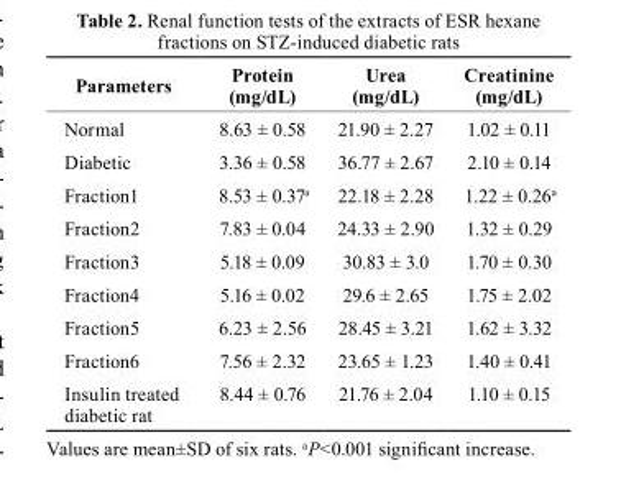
<table><thead><tr><td>Parameters</td><td>Protein (mg/dL)</td><td>Urea (mg/dL)</td><td>creatinine (mg/dL)</td></tr></thead><tbody><tr><td>Normal</td><td>8.63 ± 0.58</td><td>21.90 ± 2.27</td><td>1.02 ± 0.11</td></tr><tr><td>Diabetic</td><td>3.36 ± 0.58</td><td>36.77 ± 2.67</td><td>2.10 ± 0.14</td></tr><tr><td>Fraction1</td><td>8.53 ± 0.37<sup>a</sup></td><td>22.18 ± 2.28</td><td>1.22 ± 0.26<sup>a</sup></td></tr><tr><td>Fraction2</td><td>7.83 ± 0.04</td><td>24.33 ± 2.90</td><td>1.32 ± 0.29</td></tr><tr><td>Fraction3</td><td>5.18 ± 0.09</td><td>30.83 ± 3.0</td><td>1.70 ± 0.30</td></tr><tr><td>Fraction4</td><td>5.16 ± 0.02</td><td>29.6 ± 2.65</td><td>1.75 ± 2.02</td></tr><tr><td>Fraction5</td><td>6.23 ± 2.56</td><td>28.45 ± 3.21</td><td>1.62 ± 3.32</td></tr><tr><td>Fraction6</td><td>7.56 ± 2.32</td><td>23.65 ± 1.23</td><td>1.40 ± 0.41</td></tr><tr><td>Insulin treated diabetic rat</td><td>8.44 ± 0.76</td><td>21.76 ± 2.04</td><td>1.10 ± 0.15</td></tr></tbody></table>